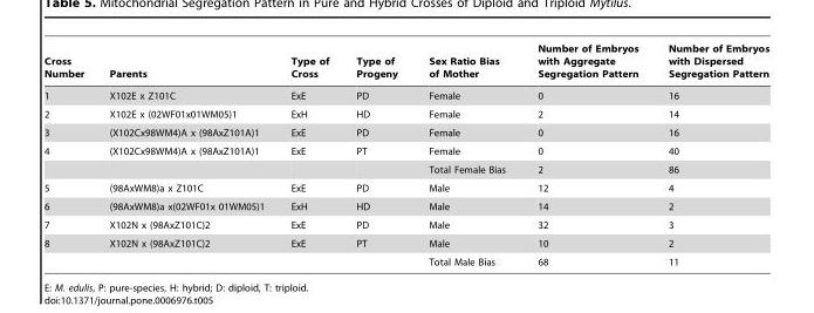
<table><thead><tr><td>Cross Number</td><td>Parents</td><td>Type of Cross</td><td>Type of Progeny</td><td>Sex Ratio Bias of Mother</td><td>Number of Embryos with Aggregate Segregation Pattern</td><td>Number of Embryos with Dispersed Segregation Pattern</td></tr></thead><tbody><tr><td>1</td><td>X102E x Z101C</td><td>ExE</td><td>PD</td><td>Female</td><td>0</td><td>16</td></tr><tr><td>2</td><td>X102E x (02WF01x01WM05)1</td><td>ExH</td><td>HD</td><td>Female</td><td>2</td><td>14</td></tr><tr><td>3</td><td>(X102Cx98WM4)A x (98AxZ101A)1</td><td>ExE</td><td>PD</td><td>Female</td><td>0</td><td>16</td></tr><tr><td rowspan="2">4</td><td>(X102Cx98WM4)A x (98AxZ101A)1</td><td>ExE</td><td>PT</td><td>Female</td><td>0</td><td>40</td></tr><tr><td></td><td></td><td></td><td>Total Female Bias</td><td>2</td><td>86</td></tr><tr><td>5</td><td>(98AxWM8)a x Z101C</td><td>ExE</td><td>PD</td><td>Male</td><td>12</td><td>4</td></tr><tr><td>6</td><td>(98AxWM8)a x(02WF01x 01WM05)1</td><td>ExH</td><td>HD</td><td>Male</td><td>14</td><td>2</td></tr><tr><td>7</td><td>X102N x (98AxZ101C)2</td><td>ExE</td><td>PD</td><td>Male</td><td>32</td><td>3</td></tr><tr><td rowspan="2">8</td><td>X102N x (98AxZ101C)2</td><td>ExE</td><td>PT</td><td>Male</td><td>10</td><td>2</td></tr><tr><td></td><td></td><td></td><td>Total Male Bias</td><td>68</td><td>11</td></tr></tbody></table>